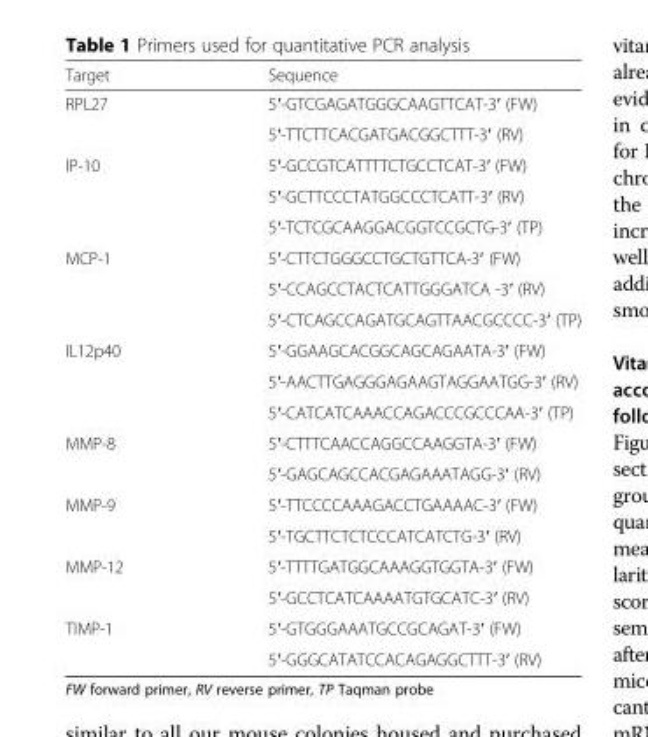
<table><thead><tr><td>Target</td><td>Sequence</td></tr></thead><tbody><tr><td rowspan="2">RPL27</td><td>5′-GTCGAGATGGGCAAGTTCAT-3′ (FW)</td></tr><tr><td>5′-TTCTTCACGATGACGGCTTT-3′ (RV)</td></tr><tr><td rowspan="3">IP-10</td><td>5′-GCCGTCATTTTCTGCCTCAT-3′ (FW)</td></tr><tr><td>5′-GCTTCCCTATGGCCCTCATT-3′ (RV)</td></tr><tr><td>5′-TCTCGCAAGGACGGTCCGCTG-3′ (TP)</td></tr><tr><td rowspan="3">MCP-1</td><td>5′-CTTCTGGGCCTGCTGTTCA-3′ (FW)</td></tr><tr><td>5′-CCAGCCTACTCATTGGGATCA -3′ (RV)</td></tr><tr><td>5′-CTCAGCCAGATGCAGTTAACGCCCC-3′ (TP)</td></tr><tr><td rowspan="3">IL12p40</td><td>5′-GGAAGCACGGCAGCAGAATA-3′ (FW)</td></tr><tr><td>5′-AACTTGAGGGAGAAGTAGGAATGG-3′ (RV)</td></tr><tr><td>5′-CATCATCAAACCAGACCCGCCCAA-3′ (TP)</td></tr><tr><td rowspan="2">MMP-8</td><td>5′-CTTTCAACCAGGCCAAGGTA-3′ (FW)</td></tr><tr><td>5′-GAGCAGCCACGAGAAATAGG-3′ (RV)</td></tr><tr><td rowspan="2">MMP-9</td><td>5′-TTCCCCAAAGACCTGAAAAC-3′ (FW)</td></tr><tr><td>5′-TGCTTCTCTCCCATCATCTG-3′ (RV)</td></tr><tr><td rowspan="2">MMP-12</td><td>5′-TTTTGATGGCAAAGGTGGTA-3′ (FW)</td></tr><tr><td>5′-GCCTCATCAAAATGTGCATC-3′ (RV)</td></tr><tr><td rowspan="2">TIMP-1</td><td>5′-GTGGGAAATGCCGCAGAT-3′ (FW)</td></tr><tr><td>5′-GGGCATATCCACAGAGGCTTT-3′ (RV)</td></tr></tbody></table>